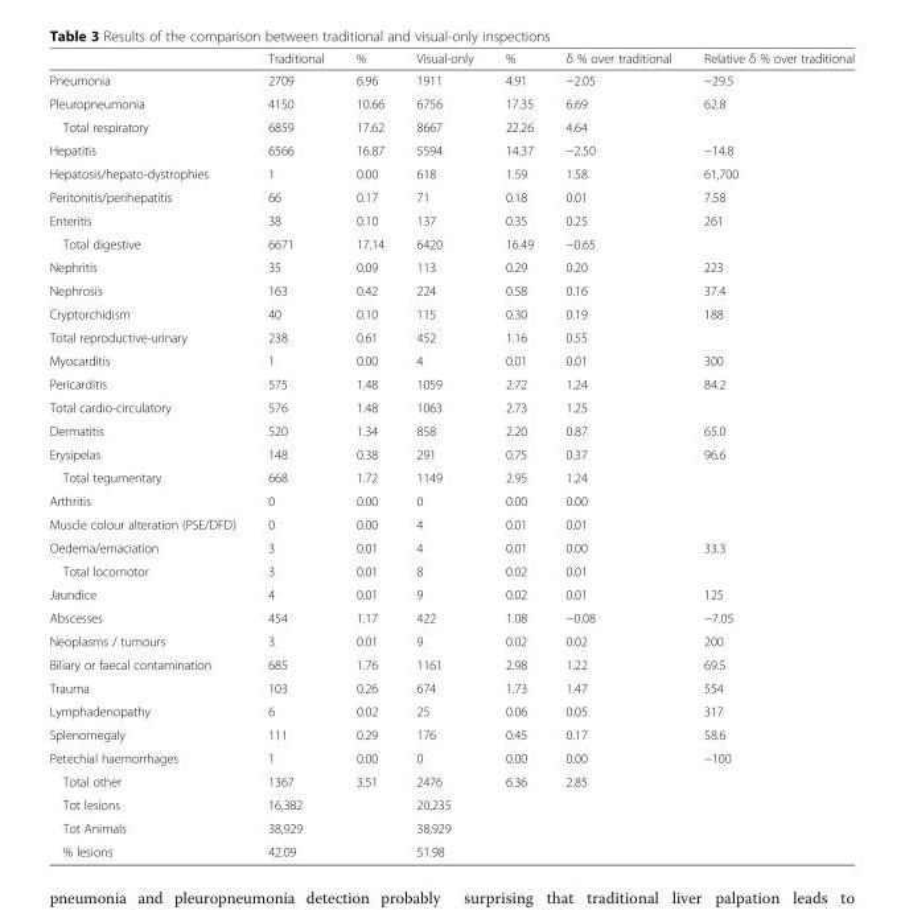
<table><thead><tr><td></td><td>Traditional</td><td>%</td><td>Visual-only</td><td>%</td><td>δ % over traditional</td><td>Relative δ % over traditional</td></tr></thead><tbody><tr><td>Pneumonia</td><td>2709</td><td>6.96</td><td>1911</td><td>4.91</td><td>−2.05</td><td>−29.5</td></tr><tr><td>Pleuropneumonia</td><td>4150</td><td>10.66</td><td>6756</td><td>17.35</td><td>6.69</td><td>62.8</td></tr><tr><td>Total respiratory</td><td>6859</td><td>17.62</td><td>8667</td><td>22.26</td><td>4.64</td><td></td></tr><tr><td>Hepatitis</td><td>6566</td><td>16.87</td><td>5594</td><td>14.37</td><td>−2.50</td><td>−14.8</td></tr><tr><td>Hepatosis/hepato-dystrophies</td><td>1</td><td>0.00</td><td>618</td><td>1.59</td><td>1.58</td><td>61,700</td></tr><tr><td>Peritonitis/perihepatitis</td><td>66</td><td>0.17</td><td>71</td><td>0.18</td><td>0.01</td><td>7.58</td></tr><tr><td>Enteritis</td><td>38</td><td>0.10</td><td>137</td><td>0.35</td><td>0.25</td><td>261</td></tr><tr><td>Total digestive</td><td>6671</td><td>17.14</td><td>6420</td><td>16.49</td><td>−0.65</td><td></td></tr><tr><td>Nephritis</td><td>35</td><td>0.09</td><td>113</td><td>0.29</td><td>0.20</td><td>223</td></tr><tr><td>Nephrosis</td><td>163</td><td>0.42</td><td>224</td><td>0.58</td><td>0.16</td><td>37.4</td></tr><tr><td>Cryptorchidism</td><td>40</td><td>0.10</td><td>115</td><td>0.30</td><td>0.19</td><td>188</td></tr><tr><td>Total reproductive-urinary</td><td>238</td><td>0.61</td><td>452</td><td>1.16</td><td>0.55</td><td></td></tr><tr><td>Myocarditis</td><td>1</td><td>0.00</td><td>4</td><td>0.01</td><td>0.01</td><td>300</td></tr><tr><td>Pericarditis</td><td>575</td><td>1.48</td><td>1059</td><td>2.72</td><td>1.24</td><td>84.2</td></tr><tr><td>Total cardio-circulatory</td><td>576</td><td>1.48</td><td>1063</td><td>2.73</td><td>1.25</td><td></td></tr><tr><td>Dermatitis</td><td>520</td><td>1.34</td><td>858</td><td>2.20</td><td>0.87</td><td>65.0</td></tr><tr><td>Erysipelas</td><td>148</td><td>0.38</td><td>291</td><td>0.75</td><td>0.37</td><td>96.6</td></tr><tr><td>Total tegumentary</td><td>668</td><td>1.72</td><td>1149</td><td>2.95</td><td>1.24</td><td></td></tr><tr><td>Arthritis</td><td>0</td><td>0.00</td><td>0</td><td>0.00</td><td>0.00</td><td></td></tr><tr><td>Muscle colour alteration (PSE/DFD)</td><td>0</td><td>0.00</td><td>4</td><td>0.01</td><td>0.01</td><td></td></tr><tr><td>Oedema/emaciation</td><td>3</td><td>0.01</td><td>4</td><td>0.01</td><td>0.00</td><td>33.3</td></tr><tr><td>Total locomotor</td><td>3</td><td>0.01</td><td>8</td><td>0.02</td><td>0.01</td><td></td></tr><tr><td>Jaundice</td><td>4</td><td>0.01</td><td>9</td><td>0.02</td><td>0.01</td><td>125</td></tr><tr><td>Abscesses</td><td>454</td><td>1.17</td><td>422</td><td>1.08</td><td>−0.08</td><td>−7.05</td></tr><tr><td>Neoplasms / tumours</td><td>3</td><td>0.01</td><td>9</td><td>0.02</td><td>0.02</td><td>200</td></tr><tr><td>Biliary or faecal contamination</td><td>685</td><td>1.76</td><td>1161</td><td>2.98</td><td>1.22</td><td>69.5</td></tr><tr><td>Trauma</td><td>103</td><td>0.26</td><td>674</td><td>1.73</td><td>1.47</td><td>554</td></tr><tr><td>Lymphadenopathy</td><td>6</td><td>0.02</td><td>25</td><td>0.06</td><td>0.05</td><td>317</td></tr><tr><td>Splenomegaly</td><td>111</td><td>0.29</td><td>176</td><td>0.45</td><td>0.17</td><td>58.6</td></tr><tr><td>Petechial haemorrhages</td><td>1</td><td>0.00</td><td>0</td><td>0.00</td><td>0.00</td><td>−100</td></tr><tr><td>Total other</td><td>1367</td><td>3.51</td><td>2476</td><td>6.36</td><td>2.85</td><td></td></tr><tr><td>Tot lesions</td><td>16,382</td><td></td><td>20,235</td><td></td><td></td><td></td></tr><tr><td>Tot Animals</td><td>38,929</td><td></td><td>38,929</td><td></td><td></td><td></td></tr><tr><td>% lesions</td><td>42.09</td><td></td><td>51.98</td><td></td><td></td><td></td></tr></tbody></table>